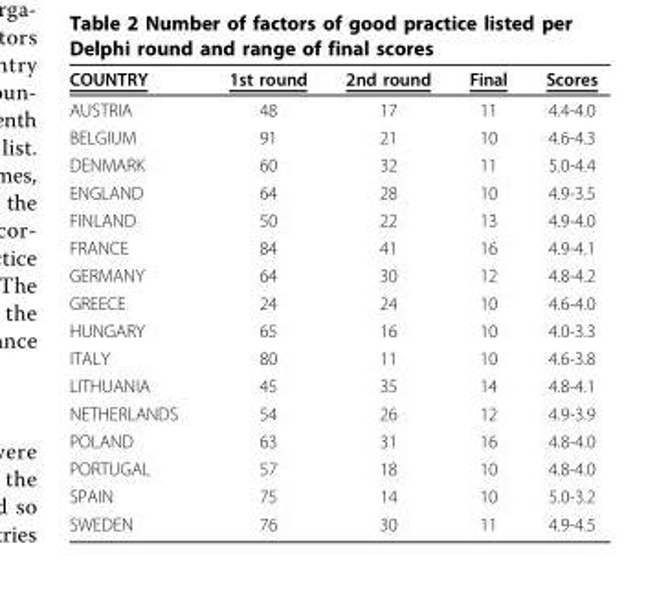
<table><thead><tr><td>COUNTRY</td><td>1st round</td><td>2nd round</td><td>Final</td><td>Scores</td></tr></thead><tbody><tr><td>AUSTRIA</td><td>48</td><td>17</td><td>11</td><td>4.4-4.0</td></tr><tr><td>BELGIUM</td><td>91</td><td>21</td><td>10</td><td>4.6-4.3</td></tr><tr><td>DENMARK</td><td>60</td><td>32</td><td>11</td><td>5.0-4.4</td></tr><tr><td>ENGLAND</td><td>64</td><td>28</td><td>10</td><td>4.9-3.5</td></tr><tr><td>FINLAND</td><td>50</td><td>22</td><td>13</td><td>4.9-4.0</td></tr><tr><td>FRANCE</td><td>84</td><td>41</td><td>16</td><td>4.9-4.1</td></tr><tr><td>GERMANY</td><td>64</td><td>30</td><td>12</td><td>4.8-4.2</td></tr><tr><td>GREECE</td><td>24</td><td>24</td><td>10</td><td>4.6-4.0</td></tr><tr><td>HUNGARY</td><td>65</td><td>16</td><td>10</td><td>4.0-3.3</td></tr><tr><td>ITALY</td><td>80</td><td>11</td><td>10</td><td>4.6-3.8</td></tr><tr><td>LITHUANIA</td><td>45</td><td>35</td><td>14</td><td>4.8-4.1</td></tr><tr><td>NETHERLANDS</td><td>54</td><td>26</td><td>12</td><td>4.9-3.9</td></tr><tr><td>POLAND</td><td>63</td><td>31</td><td>16</td><td>4.8-4.0</td></tr><tr><td>PORTUGAL</td><td>57</td><td>18</td><td>10</td><td>4.8-4.0</td></tr><tr><td>SPAIN</td><td>75</td><td>14</td><td>10</td><td>5.0-3.2</td></tr><tr><td>SWEDEN</td><td>76</td><td>30</td><td>11</td><td>4.9-4.5</td></tr></tbody></table>